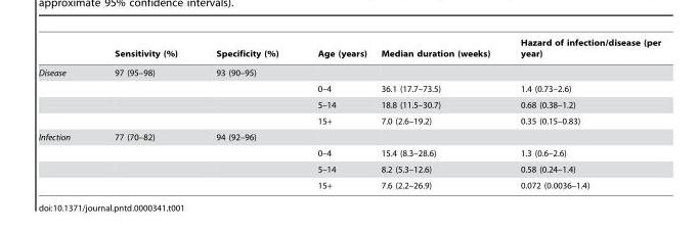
<table><thead><tr><td></td><td>Sensitivity (%)</td><td>Specificity (%)</td><td>Age (years)</td><td>Median duration (weeks)</td><td>Hazard of infection/disease (per year)</td></tr></thead><tbody><tr><td rowspan="4">Disease</td><td>97 (95–98)</td><td>93 (90–95)</td><td></td><td></td><td></td></tr><tr><td></td><td></td><td>0–4</td><td>36.1 (17.7–73.5)</td><td>1.4 (0.73–2.6)</td></tr><tr><td></td><td></td><td>5–14</td><td>18.8 (11.5–30.7)</td><td>0.68 (0.38–1.2)</td></tr><tr><td></td><td></td><td>15+</td><td>7.0 (2.6–19.2)</td><td>0.35 (0.15–0.83)</td></tr><tr><td rowspan="4">Infection</td><td>77 (70–82)</td><td>94 (92–96)</td><td></td><td colspan="2"></td></tr><tr><td></td><td></td><td>0–4</td><td>15.4 (8.3–28.6)</td><td>1.3 (0.6–2.6)</td></tr><tr><td></td><td></td><td>5–14</td><td>8.2 (5.3–12.6)</td><td>0.58 (0.24–1.4)</td></tr><tr><td></td><td></td><td>15+</td><td>7.6 (2.2–26.9)</td><td>0.072 (0.0036–1.4)</td></tr></tbody></table>